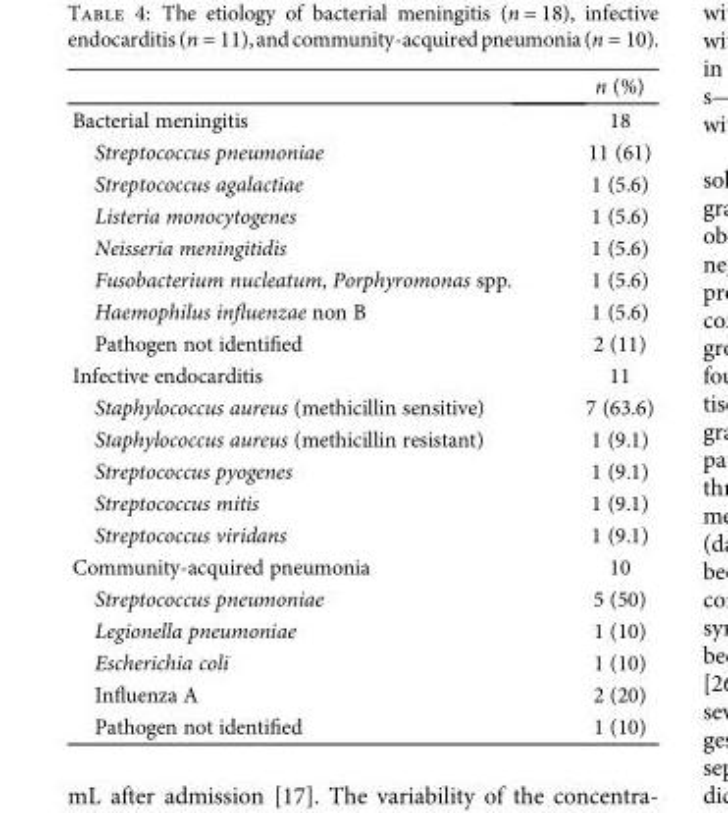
<table><thead><tr><td></td><td>n (%)</td></tr></thead><tbody><tr><td>Bacterial meningitis</td><td>18</td></tr><tr><td>Streptococcus pneumoniae</td><td>11 (61)</td></tr><tr><td>Streptococcus agalactiae</td><td>1 (5.6)</td></tr><tr><td>Listeria monocytogenes</td><td>1 (5.6)</td></tr><tr><td>Neisseria meningitidis</td><td>1 (5.6)</td></tr><tr><td>Fusobacterium nucleatum, Porphyromonas spp.</td><td>1 (5.6)</td></tr><tr><td>Haemophilus influenzae non B</td><td>1 (5.6)</td></tr><tr><td>Pathogen not identified</td><td>2 (11)</td></tr><tr><td>Infective endocarditis</td><td>11</td></tr><tr><td>Staphylococcus aureus (methicillin sensitive)</td><td>7 (63.6)</td></tr><tr><td>Staphylococcus aureus (methicillin resistant)</td><td>1 (9.1)</td></tr><tr><td>Streptococcus pyogenes</td><td>1 (9.1)</td></tr><tr><td>Streptococcus mitis</td><td>1 (9.1)</td></tr><tr><td>Streptococcus viridans</td><td>1 (9.1)</td></tr><tr><td>Community-acquired pneumonia</td><td>10</td></tr><tr><td>Streptococcus pneumoniae</td><td>5 (50)</td></tr><tr><td>Legionella pneumoniae</td><td>1 (10)</td></tr><tr><td>Escherichia coli</td><td>1 (10)</td></tr><tr><td>Influenza A</td><td>2 (20)</td></tr><tr><td>Pathogen not identified</td><td>1 (10)</td></tr></tbody></table>